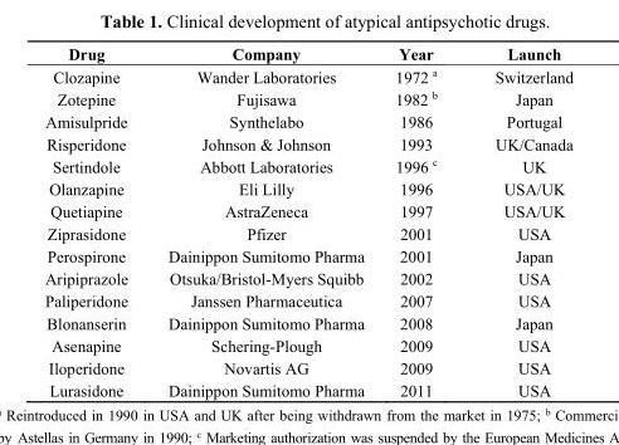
<table><thead><tr><td>Drug</td><td>Company</td><td>Year</td><td>Launch</td></tr></thead><tbody><tr><td>Clozapine</td><td>Wander Laboratories</td><td>1972 <sup>a</sup></td><td>Switzerland</td></tr><tr><td>Zotepine</td><td>Fujisawa</td><td>1982 <sup>b</sup></td><td>Japan</td></tr><tr><td>Amisulpride</td><td>Synthelabo</td><td>1986</td><td>Portugal</td></tr><tr><td>Risperidone</td><td>Johnson &amp; Johnson</td><td>1993</td><td>UK/Canada</td></tr><tr><td>Sertindole</td><td>Abbott Laboratories</td><td>1996 <sup>c</sup></td><td>UK</td></tr><tr><td>Olanzapine</td><td>Eli Lilly</td><td>1996</td><td>USA/UK</td></tr><tr><td>Quetiapine</td><td>AstraZeneca</td><td>1997</td><td>USA/UK</td></tr><tr><td>Ziprasidone</td><td>Pfizer</td><td>2001</td><td>USA</td></tr><tr><td>Perospirone</td><td>Dainippon Sumitomo Pharma</td><td>2001</td><td>Japan</td></tr><tr><td>Aripiprazole</td><td>Otsuka/Bristol-Myers Squibb</td><td>2002</td><td>USA</td></tr><tr><td>Paliperidone</td><td>Janssen Pharmaceutica</td><td>2007</td><td>USA</td></tr><tr><td>Blonanserin</td><td>Dainippon Sumitomo Pharma</td><td>2008</td><td>Japan</td></tr><tr><td>Asenapine</td><td>Schering-Plough</td><td>2009</td><td>USA</td></tr><tr><td>Iloperidone</td><td>Novartis AG</td><td>2009</td><td>USA</td></tr><tr><td>Lurasidone</td><td>Dainippon Sumitomo Pharma</td><td>2011</td><td>USA</td></tr></tbody></table>